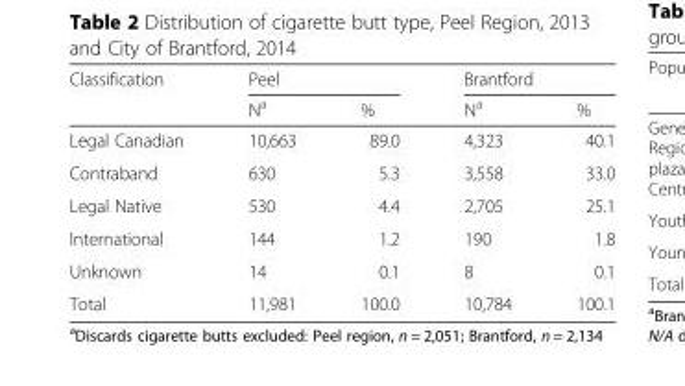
<table><thead><tr><td rowspan="2">Classification</td><td colspan="2">Peel</td><td colspan="2">Brantford</td></tr><tr><td>N<sup>a</sup></td><td>%</td><td>N<sup>a</sup></td><td>%</td></tr></thead><tbody><tr><td>Legal Canadian</td><td>10,663</td><td>89.0</td><td>4,323</td><td>40.1</td></tr><tr><td>Contraband</td><td>630</td><td>5.3</td><td>3,558</td><td>33.0</td></tr><tr><td>Legal Native</td><td>530</td><td>4.4</td><td>2,705</td><td>25.1</td></tr><tr><td>International</td><td>144</td><td>1.2</td><td>190</td><td>1.8</td></tr><tr><td>Unknown</td><td>14</td><td>0.1</td><td>8</td><td>0.1</td></tr><tr><td>Total</td><td>11,981</td><td>100.0</td><td>10,784</td><td>100.1</td></tr></tbody></table>